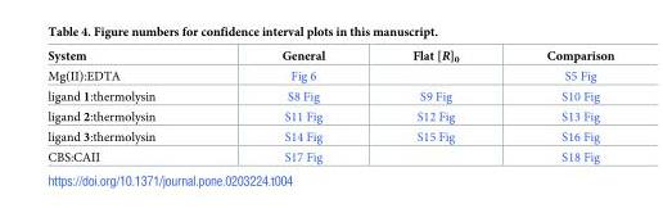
<table><thead><tr><td>System</td><td>General</td><td>Flat [R]<sub>0</sub></td><td>Comparison</td></tr></thead><tbody><tr><td>Mg(II):EDTA</td><td>Fig 6</td><td></td><td>S5 Fig</td></tr><tr><td>ligand 1:thermolysin</td><td>S8 Fig</td><td>S9 Fig</td><td>S10 Fig</td></tr><tr><td>ligand 2:thermolysin</td><td>S11 Fig</td><td>S12 Fig</td><td>S13 Fig</td></tr><tr><td>ligand 3:thermolysin</td><td>S14 Fig</td><td>S15 Fig</td><td>S16 Fig</td></tr><tr><td>CBS:CAII</td><td>S17 Fig</td><td></td><td>S18 Fig</td></tr></tbody></table>